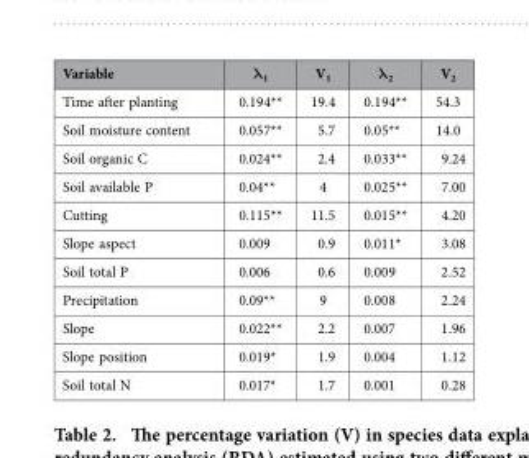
<table><thead><tr><td>Variable</td><td>λ<sub>1</sub></td><td>V<sub>1</sub></td><td>λ<sub>2</sub></td><td>V<sub>2</sub></td></tr></thead><tbody><tr><td>Time after planting</td><td>0.194**</td><td>19.4</td><td>0.194**</td><td>54.3</td></tr><tr><td>Soil moisture content</td><td>0.057**</td><td>5.7</td><td>0.05**</td><td>14.0</td></tr><tr><td>Soil organic C</td><td>0.024**</td><td>2.4</td><td>0.033**</td><td>9.24</td></tr><tr><td>Soil available P</td><td>0.04**</td><td>4</td><td>0.025**</td><td>7.00</td></tr><tr><td>Cutting</td><td>0.115**</td><td>11.5</td><td>0.015**</td><td>4.20</td></tr><tr><td>Slope aspect</td><td>0.009</td><td>0.9</td><td>0.011*</td><td>3.08</td></tr><tr><td>Soil total P</td><td>0.006</td><td>0.6</td><td>0.009</td><td>2.52</td></tr><tr><td>Precipitation</td><td>0.09**</td><td>9</td><td>0.008</td><td>2.24</td></tr><tr><td>Slope</td><td>0.022**</td><td>2.2</td><td>0.007</td><td>1.96</td></tr><tr><td>Slope position</td><td>0.019*</td><td>1.9</td><td>0.004</td><td>1.12</td></tr><tr><td>Soil total N</td><td>0.017*</td><td>1.7</td><td>0.001</td><td>0.28</td></tr></tbody></table>